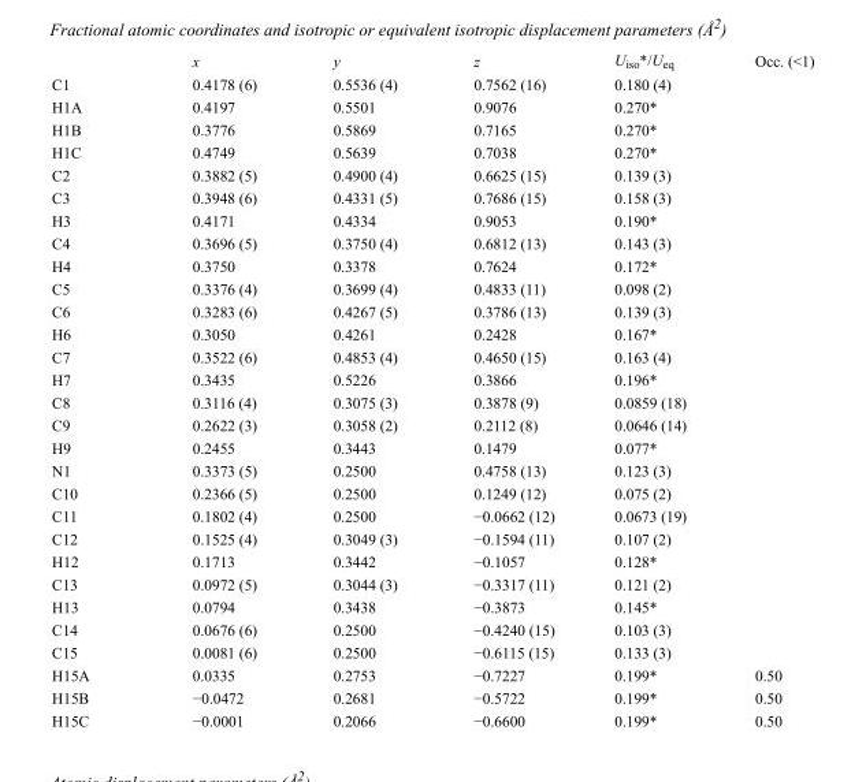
<table><thead><tr><td></td><td>x</td><td>y</td><td>z</td><td>U<sub>iso</sub>*/U<sub>eq</sub></td><td>Occ. (&lt;1)</td></tr></thead><tbody><tr><td>C1</td><td>0.4178 (6)</td><td>0.5536 (4)</td><td>0.7562 (16)</td><td>0.180 (4)</td><td></td></tr><tr><td>H1A</td><td>0.4197</td><td>0.5501</td><td>0.9076</td><td>0.270*</td><td></td></tr><tr><td>H1B</td><td>0.3776</td><td>0.5869</td><td>0.7165</td><td>0.270*</td><td></td></tr><tr><td>H1C</td><td>0.4749</td><td>0.5639</td><td>0.7038</td><td>0.270*</td><td></td></tr><tr><td>C2</td><td>0.3882 (5)</td><td>0.4900 (4)</td><td>0.6625 (15)</td><td>0.139 (3)</td><td></td></tr><tr><td>C3</td><td>0.3948 (6)</td><td>0.4331 (5)</td><td>0.7686 (15)</td><td>0.158 (3)</td><td></td></tr><tr><td>H3</td><td>0.4171</td><td>0.4334</td><td>0.9053</td><td>0.190*</td><td></td></tr><tr><td>C4</td><td>0.3696 (5)</td><td>0.3750 (4)</td><td>0.6812 (13)</td><td>0.143 (3)</td><td></td></tr><tr><td>H4</td><td>0.3750</td><td>0.3378</td><td>0.7624</td><td>0.172*</td><td></td></tr><tr><td>C5</td><td>0.3376 (4)</td><td>0.3699 (4)</td><td>0.4833 (11)</td><td>0.098 (2)</td><td></td></tr><tr><td>C6</td><td>0.3283 (6)</td><td>0.4267 (5)</td><td>0.3786 (13)</td><td>0.139 (3)</td><td></td></tr><tr><td>H6</td><td>0.3050</td><td>0.4261</td><td>0.2428</td><td>0.167*</td><td></td></tr><tr><td>C7</td><td>0.3522 (6)</td><td>0.4853 (4)</td><td>0.4650 (15)</td><td>0.163 (4)</td><td></td></tr><tr><td>H7</td><td>0.3435</td><td>0.5226</td><td>0.3866</td><td>0.196*</td><td></td></tr><tr><td>C8</td><td>0.3116 (4)</td><td>0.3075 (3)</td><td>0.3878 (9)</td><td>0.0859 (18)</td><td></td></tr><tr><td>C9</td><td>0.2622 (3)</td><td>0.3058 (2)</td><td>0.2112 (8)</td><td>0.0646 (14)</td><td></td></tr><tr><td>H9</td><td>0.2455</td><td>0.3443</td><td>0.1479</td><td>0.077*</td><td></td></tr><tr><td>N1</td><td>0.3373 (5)</td><td>0.2500</td><td>0.4758 (13)</td><td>0.123 (3)</td><td></td></tr><tr><td>C10</td><td>0.2366 (5)</td><td>0.2500</td><td>0.1249 (12)</td><td>0.075 (2)</td><td></td></tr><tr><td>C11</td><td>0.1802 (4)</td><td>0.2500</td><td>−0.0662 (12)</td><td>0.0673 (19)</td><td></td></tr><tr><td>C12</td><td>0.1525 (4)</td><td>0.3049 (3)</td><td>−0.1594 (11)</td><td>0.107 (2)</td><td></td></tr><tr><td>H12</td><td>0.1713</td><td>0.3442</td><td>−0.1057</td><td>0.128*</td><td></td></tr><tr><td>C13</td><td>0.0972 (5)</td><td>0.3044 (3)</td><td>−0.3317 (11)</td><td>0.121 (2)</td><td></td></tr><tr><td>H13</td><td>0.0794</td><td>0.3438</td><td>−0.3873</td><td>0.145*</td><td></td></tr><tr><td>C14</td><td>0.0676 (6)</td><td>0.2500</td><td>−0.4240 (15)</td><td>0.103 (3)</td><td></td></tr><tr><td>C15</td><td>0.0081 (6)</td><td>0.2500</td><td>−0.6115 (15)</td><td>0.133 (3)</td><td></td></tr><tr><td>H15A</td><td>0.0335</td><td>0.2753</td><td>−0.7227</td><td>0.199*</td><td>0.50</td></tr><tr><td>H15B</td><td>−0.0472</td><td>0.2681</td><td>−0.5722</td><td>0.199*</td><td>0.50</td></tr><tr><td>H15C</td><td>−0.0001</td><td>0.2066</td><td>−0.6600</td><td>0.199*</td><td>0.50</td></tr></tbody></table>